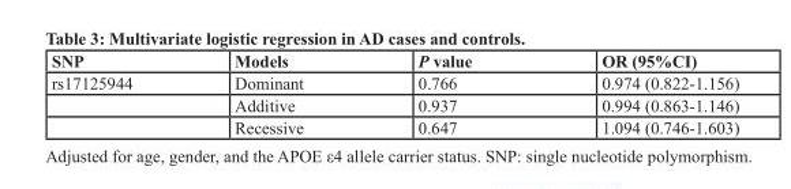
<table><thead><tr><td>SNP</td><td>Models</td><td>P value</td><td>OR (95%CI)</td></tr></thead><tbody><tr><td rowspan="3">rs17125944</td><td>Dominant</td><td>0.766</td><td>0.974 (0.822-1.156)</td></tr><tr><td>Additive</td><td>0.937</td><td>0.994 (0.863-1.146)</td></tr><tr><td>Recessive</td><td>0.647</td><td>1.094 (0.746-1.603)</td></tr></tbody></table>